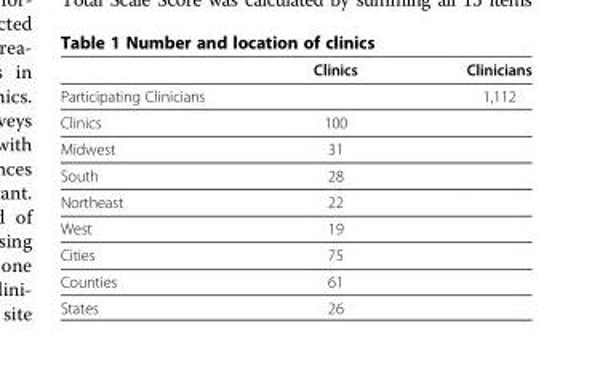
<table><thead><tr><td></td><td>Clinics</td><td>Clinicians</td></tr></thead><tbody><tr><td>Participating Clinicians</td><td></td><td>1,112</td></tr><tr><td>Clinics</td><td>100</td><td></td></tr><tr><td>Midwest</td><td>31</td><td></td></tr><tr><td>South</td><td>28</td><td></td></tr><tr><td>Northeast</td><td>22</td><td></td></tr><tr><td>West</td><td>19</td><td></td></tr><tr><td>Cities</td><td>75</td><td></td></tr><tr><td>Counties</td><td>61</td><td></td></tr><tr><td>States</td><td>26</td><td></td></tr></tbody></table>